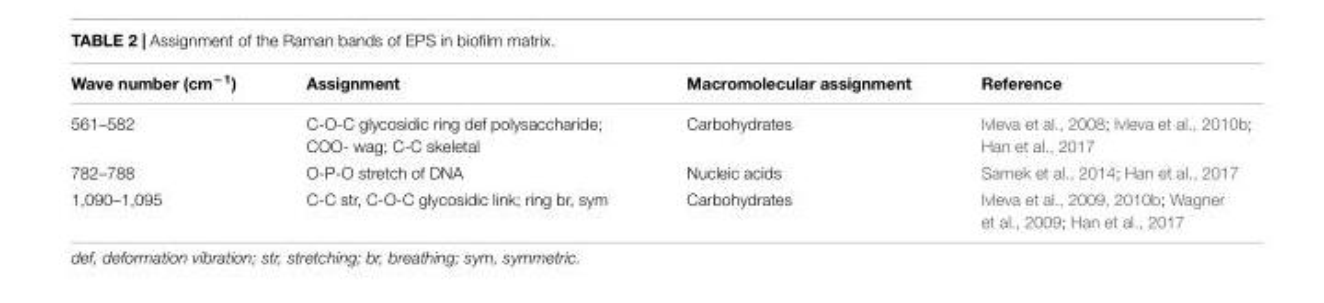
<table><thead><tr><td>Wave number (cm<sup>−1</sup>)</td><td>Assignment</td><td>Macromolecular assignment</td><td>Reference</td></tr></thead><tbody><tr><td>561–582</td><td>C-O-C glycosidic ring def polysaccharide; COO- wag; C-C skeletal</td><td>Carbohydrates</td><td>Ivleva et al., 2008; Ivleva et al., 2010b; Han et al., 2017</td></tr><tr><td>782–788</td><td>O-P-O stretch of DNA</td><td>Nucleic acids</td><td>Samek et al., 2014; Han et al., 2017</td></tr><tr><td>1,090–1,095</td><td>C-C str, C-O-C glycosidic link; ring br, sym</td><td>Carbohydrates</td><td>Ivleva et al., 2009, 2010b; Wagner et al., 2009; Han et al., 2017</td></tr></tbody></table>